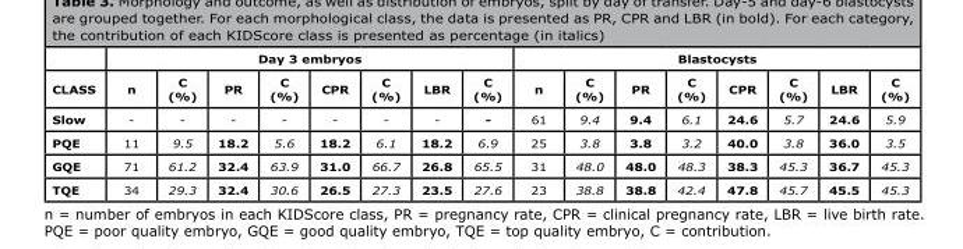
<table><thead><tr><td rowspan="2">CLASS</td><td colspan="8">Day 3 embryos</td><td colspan="8">Blastocysts</td></tr><tr><td>n</td><td>C (%)</td><td>PR</td><td>C (%)</td><td>CPR</td><td>C (%)</td><td>LBR</td><td>C (%)</td><td>n</td><td>C (%)</td><td>PR</td><td>C (%)</td><td>CPR</td><td>C (%)</td><td>LBR</td><td>C (%)</td></tr></thead><tbody><tr><td>Slow</td><td>-</td><td>-</td><td>-</td><td>-</td><td>-</td><td>-</td><td>-</td><td>-</td><td>61</td><td>9.4</td><td>9.4</td><td>6.1</td><td>24.6</td><td>5.7</td><td>24.6</td><td>5.9</td></tr><tr><td>PQE</td><td>11</td><td>9.5</td><td>18.2</td><td>5.6</td><td>18.2</td><td>6.1</td><td>18.2</td><td>6.9</td><td>25</td><td>3.8</td><td>3.8</td><td>3.2</td><td>40.0</td><td>3.8</td><td>36.0</td><td>3.5</td></tr><tr><td>GQE</td><td>71</td><td>61.2</td><td>32.4</td><td>63.9</td><td>31.0</td><td>66.7</td><td>26.8</td><td>65.5</td><td>31</td><td>48.0</td><td>48.0</td><td>48.3</td><td>38.3</td><td>45.3</td><td>36.7</td><td>45.3</td></tr><tr><td>TQE</td><td>34</td><td>29.3</td><td>32.4</td><td>30.6</td><td>26.5</td><td>27.3</td><td>23.5</td><td>27.6</td><td>23</td><td>38.8</td><td>38.8</td><td>42.4</td><td>47.8</td><td>45.7</td><td>45.5</td><td>45.3</td></tr></tbody></table>